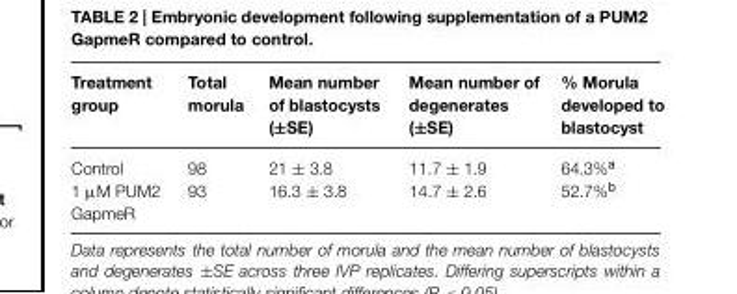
<table><thead><tr><td>Treatment group</td><td>Total morula</td><td>Mean number of blastocysts (±SE)</td><td>Mean number of degenerates (±SE)</td><td>% Morula developed to blastocyst</td></tr></thead><tbody><tr><td>Control 1 µM PUM2 GapmeR</td><td>98 93</td><td>21 ± 3.8 16.3 ± 3.8</td><td>11.7 ± 1.9 14.7 ± 2.6</td><td>64.3%<sup>a</sup> 52.7%<sup>b</sup></td></tr></tbody></table>